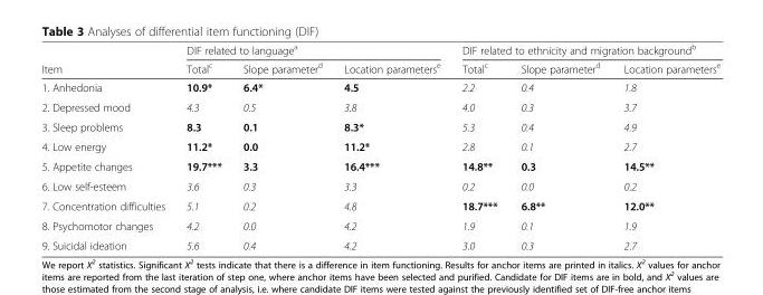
<table><thead><tr><td rowspan="2">Item</td><td colspan="3">DIF related to language<sup>a</sup></td><td colspan="3">DIF related to ethnicity and migration background<sup>b</sup></td></tr><tr><td>Total<sup>c</sup></td><td>Slope parameter<sup>d</sup></td><td>Location parameters<sup>e</sup></td><td>Total<sup>c</sup></td><td>Slope parameter<sup>d</sup></td><td>Location parameters<sup>e</sup></td></tr></thead><tbody><tr><td>1. Anhedonia</td><td>10.9*</td><td>6.4*</td><td>4.5</td><td>2.2</td><td>0.4</td><td>1.8</td></tr><tr><td>2. Depressed mood</td><td>4.3</td><td>0.5</td><td>3.8</td><td>4.0</td><td>0.3</td><td>3.7</td></tr><tr><td>3. Sleep problems</td><td>8.3</td><td>0.1</td><td>8.3*</td><td>5.3</td><td>0.4</td><td>4.9</td></tr><tr><td>4. Low energy</td><td>11.2*</td><td>0.0</td><td>11.2*</td><td>2.8</td><td>0.1</td><td>2.7</td></tr><tr><td>5. Appetite changes</td><td>19.7***</td><td>3.3</td><td>16.4***</td><td>14.8**</td><td>0.3</td><td>14.5**</td></tr><tr><td>6. Low self-esteem</td><td>3.6</td><td>0.3</td><td>3.3</td><td>0.2</td><td>0.0</td><td>0.2</td></tr><tr><td>7. Concentration difficulties</td><td>5.1</td><td>0.2</td><td>4.8</td><td>18.7***</td><td>6.8**</td><td>12.0**</td></tr><tr><td>8. Psychomotor changes</td><td>4.2</td><td>0.0</td><td>4.2</td><td>1.9</td><td>0.1</td><td>1.9</td></tr><tr><td>9. Suicidal ideation</td><td>5.6</td><td>0.4</td><td>4.2</td><td>3.0</td><td>0.3</td><td>2.7</td></tr></tbody></table>